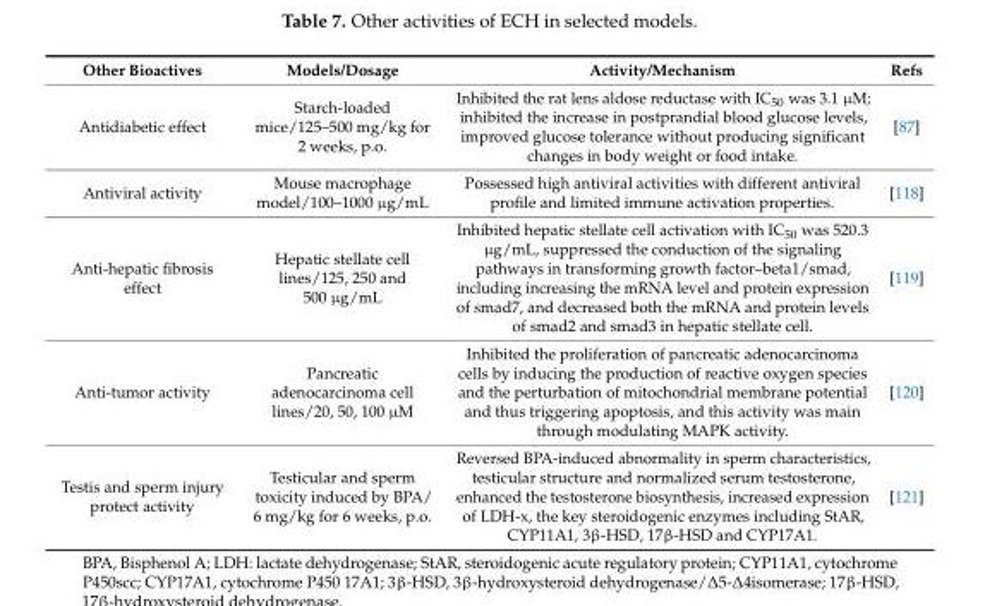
<table><tbody><tr><td>Other Bioactives</td><td>Models/Dosage</td><td>Activity/Mechanism</td><td>Refs</td></tr><tr><td>Antidiabetic effect</td><td>Starch-loaded mice/125–500 mg/kg for 2 weeks, p.o.</td><td>Inhibited the rat lens aldose reductase with IC<sub>50</sub> was 3.1 µM; inhibited the increase in postprandial blood glucose levels, improved glucose tolerance without producing significant changes in body weight or food intake.</td><td>[87]</td></tr><tr><td>Antiviral activity</td><td>Mouse macrophage model/100–1000 µg/mL</td><td>Possessed high antiviral activities with different antiviral profile and limited immune activation properties.</td><td>[118]</td></tr><tr><td>Anti-hepatic fibrosis effect</td><td>Hepatic stellate cell lines/125, 250 and 500 µg/mL</td><td>Inhibited hepatic stellate cell activation with IC<sub>50</sub> was 520.3 µg/mL, suppressed the conduction of the signaling pathways in transforming growth factor–beta1/smad, including increasing the mRNA level and protein expression of smad7, and decreased both the mRNA and protein levels of smad2 and smad3 in hepatic stellate cell.</td><td>[119]</td></tr><tr><td>Anti-tumor activity</td><td>Pancreatic adenocarcinoma cell lines/20, 50, 100 µM</td><td>Inhibited the proliferation of pancreatic adenocarcinoma cells by inducing the production of reactive oxygen species and the perturbation of mitochondrial membrane potential and thus triggering apoptosis, and this activity was main through modulating MAPK activity.</td><td>[120]</td></tr><tr><td>Testis and sperm injury protect activity</td><td>Testicular and sperm toxicity induced by BPA/ 6 mg/kg for 6 weeks, p.o.</td><td>Reversed BPA-induced abnormality in sperm characteristics, testicular structure and normalized serum testosterone, enhanced the testosterone biosynthesis, increased expression of LDH-x, the key steroidogenic enzymes including StAR, CYP11A1, 3β-HSD, 17β-HSD and CYP17A1.</td><td>[121]</td></tr></tbody></table>